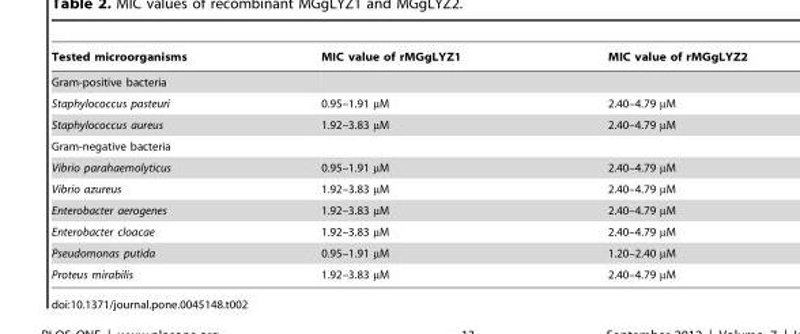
<table><thead><tr><td>Tested microorganisms</td><td>MIC value of rMGgLYZ1</td><td>MIC value of rMGgLYZ2</td></tr></thead><tbody><tr><td colspan="3">Gram-positive bacteria</td></tr><tr><td>Staphylococcus pasteuri</td><td>0.95–1.91 µM</td><td>2.40–4.79 µM</td></tr><tr><td>Staphylococcus aureus</td><td>1.92–3.83 µM</td><td>2.40–4.79 µM</td></tr><tr><td colspan="3">Gram-negative bacteria</td></tr><tr><td>Vibrio parahaemolyticus</td><td>0.95–1.91 µM</td><td>2.40–4.79 µM</td></tr><tr><td>Vibrio azureus</td><td>1.92–3.83 µM</td><td>2.40–4.79 µM</td></tr><tr><td>Enterobacter aerogenes</td><td>1.92–3.83 µM</td><td>2.40–4.79 µM</td></tr><tr><td>Enterobacter cloacae</td><td>1.92–3.83 µM</td><td>2.40–4.79 µM</td></tr><tr><td>Pseudomonas putida</td><td>0.95–1.91 µM</td><td>1.20–2.40 µM</td></tr><tr><td>Proteus mirabilis</td><td>1.92–3.83 µM</td><td>2.40–4.79 µM</td></tr></tbody></table>